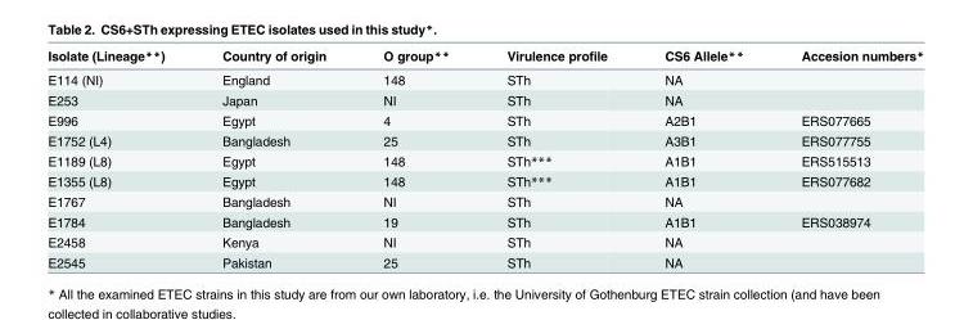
<table><thead><tr><td>Isolate (Lineage**)</td><td>Country of origin</td><td>O group**</td><td>Virulence profile</td><td>CS6 Allele**</td><td>Accesion numbers*</td></tr></thead><tbody><tr><td>E114 (NI)</td><td>England</td><td>148</td><td>STh</td><td>NA</td><td></td></tr><tr><td>E253</td><td>Japan</td><td>NI</td><td>STh</td><td>NA</td><td></td></tr><tr><td>E996</td><td>Egypt</td><td>4</td><td>STh</td><td>A2B1</td><td>ERS077665</td></tr><tr><td>E1752 (L4)</td><td>Bangladesh</td><td>25</td><td>STh</td><td>A3B1</td><td>ERS077755</td></tr><tr><td>E1189 (L8)</td><td>Egypt</td><td>148</td><td>STh***</td><td>A1B1</td><td>ERS515513</td></tr><tr><td>E1355 (L8)</td><td>Egypt</td><td>148</td><td>STh***</td><td>A1B1</td><td>ERS077682</td></tr><tr><td>E1767</td><td>Bangladesh</td><td>NI</td><td>STh</td><td>NA</td><td></td></tr><tr><td>E1784</td><td>Bangladesh</td><td>19</td><td>STh</td><td>A1B1</td><td>ERS038974</td></tr><tr><td>E2458</td><td>Kenya</td><td>NI</td><td>STh</td><td>NA</td><td></td></tr><tr><td>E2545</td><td>Pakistan</td><td>25</td><td>STh</td><td>NA</td><td></td></tr></tbody></table>